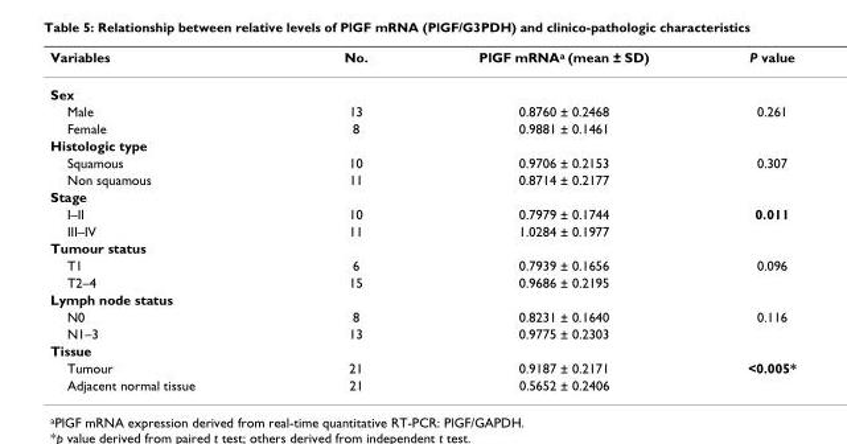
<table><thead><tr><td>Variables</td><td>No.</td><td>PlGF mRNA<sup>a</sup> (mean ± SD)</td><td>P value</td></tr></thead><tbody><tr><td colspan="4">Sex</td></tr><tr><td>Male</td><td>13</td><td>0.8760 ± 0.2468</td><td>0.261</td></tr><tr><td>Female</td><td>8</td><td>0.9881 ± 0.1461</td><td></td></tr><tr><td colspan="4">Histologic type</td></tr><tr><td>Squamous</td><td>10</td><td>0.9706 ± 0.2153</td><td>0.307</td></tr><tr><td>Non squamous</td><td>11</td><td>0.8714 ± 0.2177</td><td></td></tr><tr><td colspan="4">Stage</td></tr><tr><td>I–II</td><td>10</td><td>0.7979 ± 0.1744</td><td>0.011</td></tr><tr><td>III–IV</td><td>11</td><td>1.0284 ± 0.1977</td><td></td></tr><tr><td colspan="4">Tumour status</td></tr><tr><td>T1</td><td>6</td><td>0.7939 ± 0.1656</td><td>0.096</td></tr><tr><td>T2–4</td><td>15</td><td>0.9686 ± 0.2195</td><td></td></tr><tr><td colspan="4">Lymph node status</td></tr><tr><td>N0</td><td>8</td><td>0.8231 ± 0.1640</td><td>0.116</td></tr><tr><td>N1–3</td><td>13</td><td>0.9775 ± 0.2303</td><td></td></tr><tr><td colspan="4">Tissue</td></tr><tr><td>Tumour</td><td>21</td><td>0.9187 ± 0.2171</td><td>&lt;0.005*</td></tr><tr><td>Adjacent normal tissue</td><td>21</td><td>0.5652 ± 0.2406</td><td></td></tr></tbody></table>